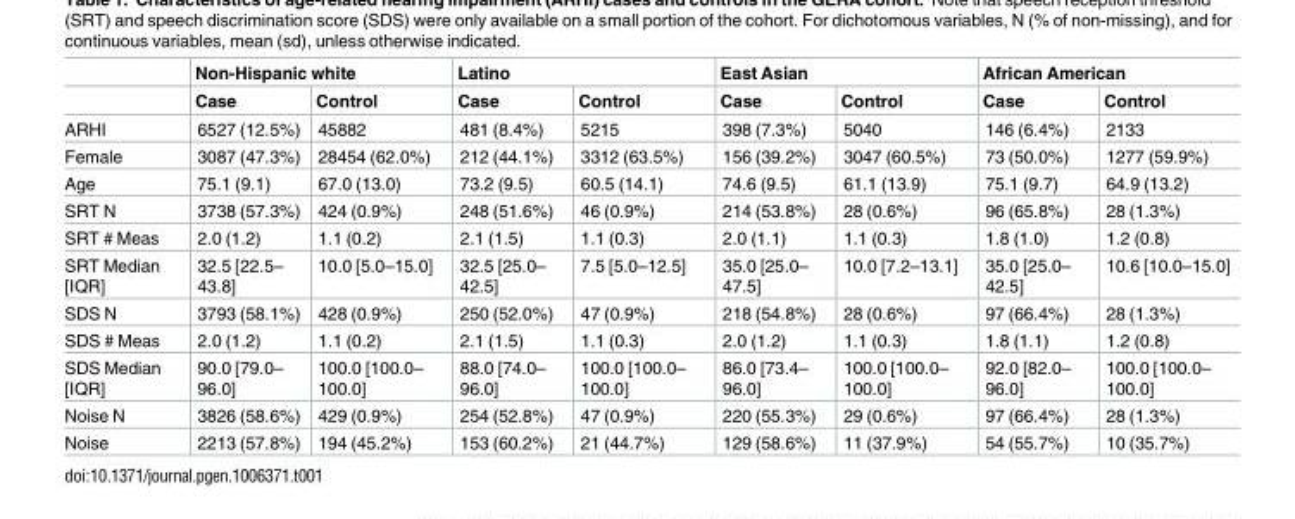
<table><thead><tr><td rowspan="2"></td><td colspan="2">Non-Hispanic white</td><td colspan="2">Latino</td><td colspan="2">East Asian</td><td colspan="2">African American</td></tr><tr><td>Case</td><td>Control</td><td>Case</td><td>Control</td><td>Case</td><td>Control</td><td>Case</td><td>Control</td></tr></thead><tbody><tr><td>ARHI</td><td>6527 (12.5%)</td><td>45882</td><td>481 (8.4%)</td><td>5215</td><td>398 (7.3%)</td><td>5040</td><td>146 (6.4%)</td><td>2133</td></tr><tr><td>Female</td><td>3087 (47.3%)</td><td>28454 (62.0%)</td><td>212 (44.1%)</td><td>3312 (63.5%)</td><td>156 (39.2%)</td><td>3047 (60.5%)</td><td>73 (50.0%)</td><td>1277 (59.9%)</td></tr><tr><td>Age</td><td>75.1 (9.1)</td><td>67.0 (13.0)</td><td>73.2 (9.5)</td><td>60.5 (14.1)</td><td>74.6 (9.5)</td><td>61.1 (13.9)</td><td>75.1 (9.7)</td><td>64.9 (13.2)</td></tr><tr><td>SRT N</td><td>3738 (57.3%)</td><td>424 (0.9%)</td><td>248 (51.6%)</td><td>46 (0.9%)</td><td>214 (53.8%)</td><td>28 (0.6%)</td><td>96 (65.8%)</td><td>28 (1.3%)</td></tr><tr><td>SRT # Meas</td><td>2.0 (1.2)</td><td>1.1 (0.2)</td><td>2.1 (1.5)</td><td>1.1 (0.3)</td><td>2.0 (1.1)</td><td>1.1 (0.3)</td><td>1.8 (1.0)</td><td>1.2 (0.8)</td></tr><tr><td>SRT Median [IQR]</td><td>32.5 [22.5– 43.8]</td><td>10.0 [5.0–15.0]</td><td>32.5 [25.0– 42.5]</td><td>7.5 [5.0–12.5]</td><td>35.0 [25.0– 47.5]</td><td>10.0 [7.2–13.1]</td><td>35.0 [25.0– 42.5]</td><td>10.6 [10.0–15.0]</td></tr><tr><td>SDS N</td><td>3793 (58.1%)</td><td>428 (0.9%)</td><td>250 (52.0%)</td><td>47 (0.9%)</td><td>218 (54.8%)</td><td>28 (0.6%)</td><td>97 (66.4%)</td><td>28 (1.3%)</td></tr><tr><td>SDS # Meas</td><td>2.0 (1.2)</td><td>1.1 (0.2)</td><td>2.1 (1.5)</td><td>1.1 (0.3)</td><td>2.0 (1.2)</td><td>1.1 (0.3)</td><td>1.8 (1.1)</td><td>1.2 (0.8)</td></tr><tr><td>SDS Median [IQR]</td><td>90.0 [79.0– 96.0]</td><td>100.0 [100.0– 100.0]</td><td>88.0 [74.0– 96.0]</td><td>100.0 [100.0– 100.0]</td><td>86.0 [73.4– 96.0]</td><td>100.0 [100.0– 100.0]</td><td>92.0 [82.0– 96.0]</td><td>100.0 [100.0– 100.0]</td></tr><tr><td>Noise N</td><td>3826 (58.6%)</td><td>429 (0.9%)</td><td>254 (52.8%)</td><td>47 (0.9%)</td><td>220 (55.3%)</td><td>29 (0.6%)</td><td>97 (66.4%)</td><td>28 (1.3%)</td></tr><tr><td>Noise</td><td>2213 (57.8%)</td><td>194 (45.2%)</td><td>153 (60.2%)</td><td>21 (44.7%)</td><td>129 (58.6%)</td><td>11 (37.9%)</td><td>54 (55.7%)</td><td>10 (35.7%)</td></tr></tbody></table>